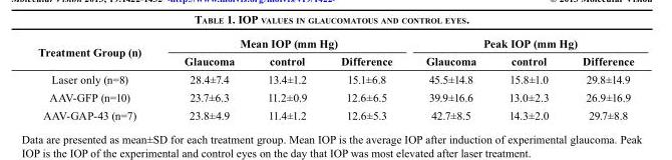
<table><thead><tr><td rowspan="2">Treatment Group (n)</td><td colspan="3">Mean IOP (mm Hg)</td><td colspan="3">Peak IOP (mm Hg)</td></tr><tr><td>Glaucoma</td><td>control</td><td>Difference</td><td>Glaucoma</td><td>control</td><td>Difference</td></tr></thead><tbody><tr><td>Laser only (n=8)</td><td>28.4±7.4</td><td>13.4±1.2</td><td>15.1±6.8</td><td>45.5±14.8</td><td>15.8±1.0</td><td>29.8±14.9</td></tr><tr><td>AAV-GFP (n=10)</td><td>23.7±6.3</td><td>11.2±0.9</td><td>12.6±6.5</td><td>39.9±16.6</td><td>13.0±2.3</td><td>26.9±16.9</td></tr><tr><td>AAV-GAP-43 (n=7)</td><td>23.8±4.9</td><td>11.4±1.2</td><td>12.6±5.3</td><td>42.7±8.5</td><td>14.3±2.0</td><td>29.7±8.8</td></tr></tbody></table>